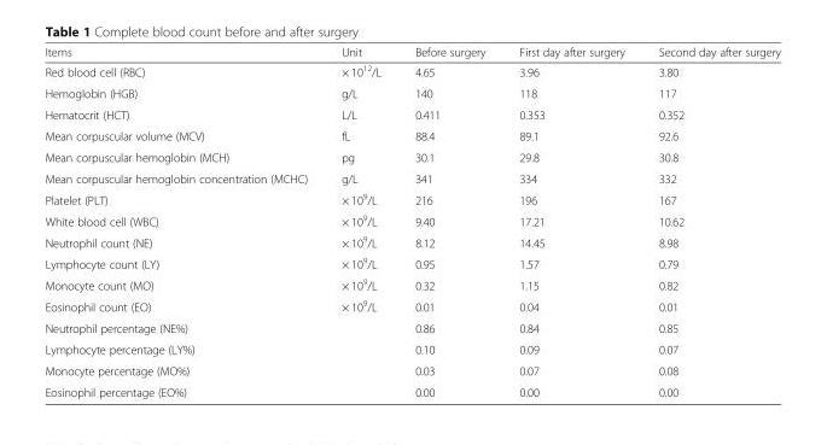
<table><thead><tr><td>Items</td><td>Unit</td><td>Before surgery</td><td>First day after surgery</td><td>Second day after surgery</td></tr></thead><tbody><tr><td>Red blood cell (RBC)</td><td>× 10<sup>12</sup>/L</td><td>4.65</td><td>3.96</td><td>3.80</td></tr><tr><td>Hemoglobin (HGB)</td><td>g/L</td><td>140</td><td>118</td><td>117</td></tr><tr><td>Hematocrit (HCT)</td><td>L/L</td><td>0.411</td><td>0.353</td><td>0.352</td></tr><tr><td>Mean corpuscular volume (MCV)</td><td>fL</td><td>88.4</td><td>89.1</td><td>92.6</td></tr><tr><td>Mean corpuscular hemoglobin (MCH)</td><td>pg</td><td>30.1</td><td>29.8</td><td>30.8</td></tr><tr><td>Mean corpuscular hemoglobin concentration (MCHC)</td><td>g/L</td><td>341</td><td>334</td><td>332</td></tr><tr><td>Platelet (PLT)</td><td>× 10<sup>9</sup>/L</td><td>216</td><td>196</td><td>167</td></tr><tr><td>White blood cell (WBC)</td><td>× 10<sup>9</sup>/L</td><td>9.40</td><td>17.21</td><td>10.62</td></tr><tr><td>Neutrophil count (NE)</td><td>× 10<sup>9</sup>/L</td><td>8.12</td><td>14.45</td><td>8.98</td></tr><tr><td>Lymphocyte count (LY)</td><td>× 10<sup>9</sup>/L</td><td>0.95</td><td>1.57</td><td>0.79</td></tr><tr><td>Monocyte count (MO)</td><td>× 10<sup>9</sup>/L</td><td>0.32</td><td>1.15</td><td>0.82</td></tr><tr><td>Eosinophil count (EO)</td><td>× 10<sup>9</sup>/L</td><td>0.01</td><td>0.04</td><td>0.01</td></tr><tr><td>Neutrophil percentage (NE%)</td><td></td><td>0.86</td><td>0.84</td><td>0.85</td></tr><tr><td>Lymphocyte percentage (LY%)</td><td></td><td>0.10</td><td>0.09</td><td>0.07</td></tr><tr><td>Monocyte percentage (MO%)</td><td></td><td>0.03</td><td>0.07</td><td>0.08</td></tr><tr><td>Eosinophil percentage (EO%)</td><td></td><td>0.00</td><td>0.00</td><td>0.00</td></tr></tbody></table>